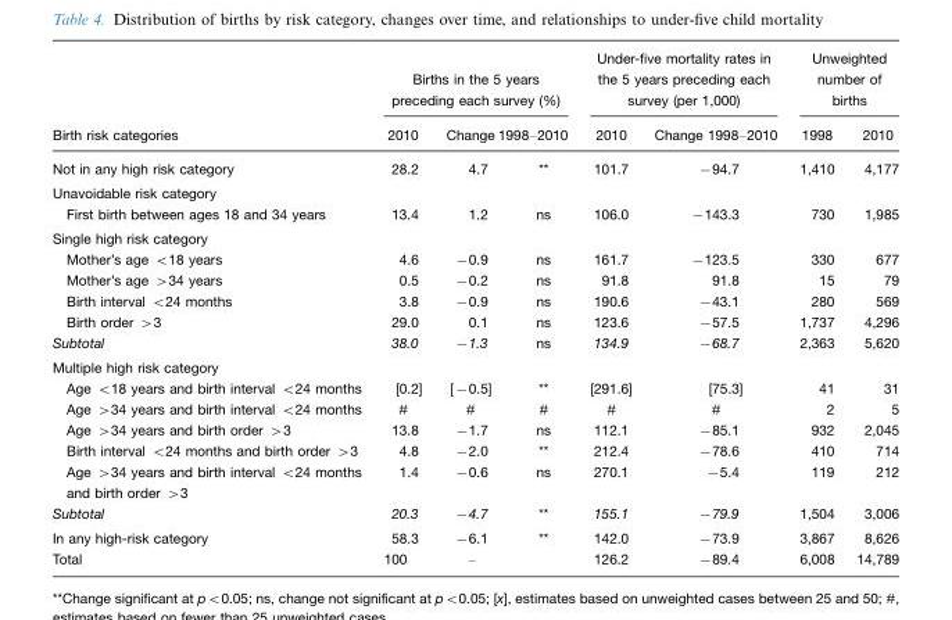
<table><thead><tr><td rowspan="2">Birth risk categories</td><td colspan="3">Births in the 5 years preceding each survey (%)</td><td colspan="2">Under-five mortality rates in the 5 years preceding each survey (per 1,000)</td><td colspan="2">Unweighted number of births</td></tr><tr><td>2010</td><td>Change</td><td>1998–2010</td><td>2010</td><td>Change 1998–2010</td><td>1998</td><td>2010</td></tr></thead><tbody><tr><td>Not in any high risk category</td><td>28.2</td><td>4.7</td><td>**</td><td>101.7</td><td>−94.7</td><td>1,410</td><td>4,177</td></tr><tr><td colspan="8">Unavoidable risk category</td></tr><tr><td>First birth between ages 18 and 34 years</td><td>13.4</td><td>1.2</td><td>ns</td><td>106.0</td><td>−143.3</td><td>730</td><td>1,985</td></tr><tr><td colspan="8">Single high risk category</td></tr><tr><td>Mother’s age &lt;18 years</td><td>4.6</td><td>−0.9</td><td>ns</td><td>161.7</td><td>−123.5</td><td>330</td><td>677</td></tr><tr><td>Mother’s age &gt;34 years</td><td>0.5</td><td>−0.2</td><td>ns</td><td>91.8</td><td>91.8</td><td>15</td><td>79</td></tr><tr><td>Birth interval &lt;24 months</td><td>3.8</td><td>−0.9</td><td>ns</td><td>190.6</td><td>−43.1</td><td>280</td><td>569</td></tr><tr><td>Birth order &gt;3</td><td>29.0</td><td>0.1</td><td>ns</td><td>123.6</td><td>−57.5</td><td>1,737</td><td>4,296</td></tr><tr><td>Subtotal</td><td>38.0</td><td>−1.3</td><td>ns</td><td>134.9</td><td>−68.7</td><td>2,363</td><td>5,620</td></tr><tr><td colspan="8">Multiple high risk category</td></tr><tr><td>Age &lt;18 years and birth interval &lt;24 months</td><td>[0.2]</td><td>[−0.5]</td><td>**</td><td>[291.6]</td><td>[75.3]</td><td>41</td><td>31</td></tr><tr><td>Age &gt;34 years and birth interval &lt;24 months</td><td>#</td><td>#</td><td>#</td><td>#</td><td>#</td><td>2</td><td>5</td></tr><tr><td>Age &gt;34 years and birth order &gt;3</td><td>13.8</td><td>−1.7</td><td>ns</td><td>112.1</td><td>−85.1</td><td>932</td><td>2,045</td></tr><tr><td>Birth interval &lt;24 months and birth order &gt;3</td><td>4.8</td><td>−2.0</td><td>**</td><td>212.4</td><td>−78.6</td><td>410</td><td>714</td></tr><tr><td>Age &gt;34 years and birth interval &lt;24 months and birth order &gt;3</td><td>1.4</td><td>−0.6</td><td>ns</td><td>270.1</td><td>−5.4</td><td>119</td><td>212</td></tr><tr><td>Subtotal</td><td>20.3</td><td>−4.7</td><td>**</td><td>155.1</td><td>−79.9</td><td>1,504</td><td>3,006</td></tr><tr><td>In any high-risk category</td><td>58.3</td><td>−6.1</td><td>**</td><td>142.0</td><td>−73.9</td><td>3,867</td><td>8,626</td></tr><tr><td>Total</td><td>100</td><td>–</td><td></td><td>126.2</td><td>−89.4</td><td>6,008</td><td>14,789</td></tr></tbody></table>